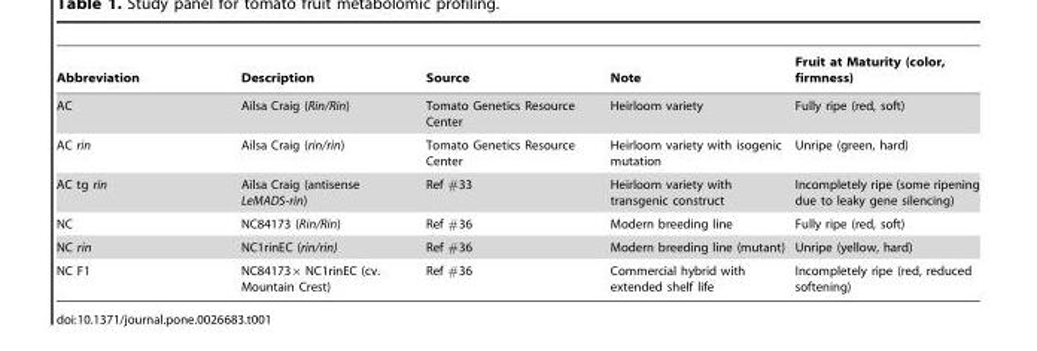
<table><thead><tr><td>Abbreviation</td><td>Description</td><td>Source</td><td>Note</td><td>Fruit at Maturity (color, firmness)</td></tr></thead><tbody><tr><td>AC</td><td>Ailsa Craig (Rin/Rin)</td><td>Tomato Genetics Resource Center</td><td>Heirloom variety</td><td>Fully ripe (red, soft)</td></tr><tr><td>AC rin</td><td>Ailsa Craig (rin/rin)</td><td>Tomato Genetics Resource Center</td><td>Heirloom variety with isogenic mutation</td><td>Unripe (green, hard)</td></tr><tr><td>AC tg rin</td><td>Ailsa Craig (antisense LeMADS-rin)</td><td>Ref #33</td><td>Heirloom variety with transgenic construct</td><td>Incompletely ripe (some ripening due to leaky gene silencing)</td></tr><tr><td>NC</td><td>NC84173 (Rin/Rin)</td><td>Ref #36</td><td>Modern breeding line</td><td>Fully ripe (red, soft)</td></tr><tr><td>NC rin</td><td>NC1rinEC (rin/rin)</td><td>Ref #36</td><td>Modern breeding line (mutant)</td><td>Unripe (yellow, hard)</td></tr><tr><td>NC F1</td><td>NC84173× NC1rinEC (cv. Mountain Crest)</td><td>Ref #36</td><td>Commercial hybrid with extended shelf life</td><td>Incompletely ripe (red, reduced softening)</td></tr></tbody></table>